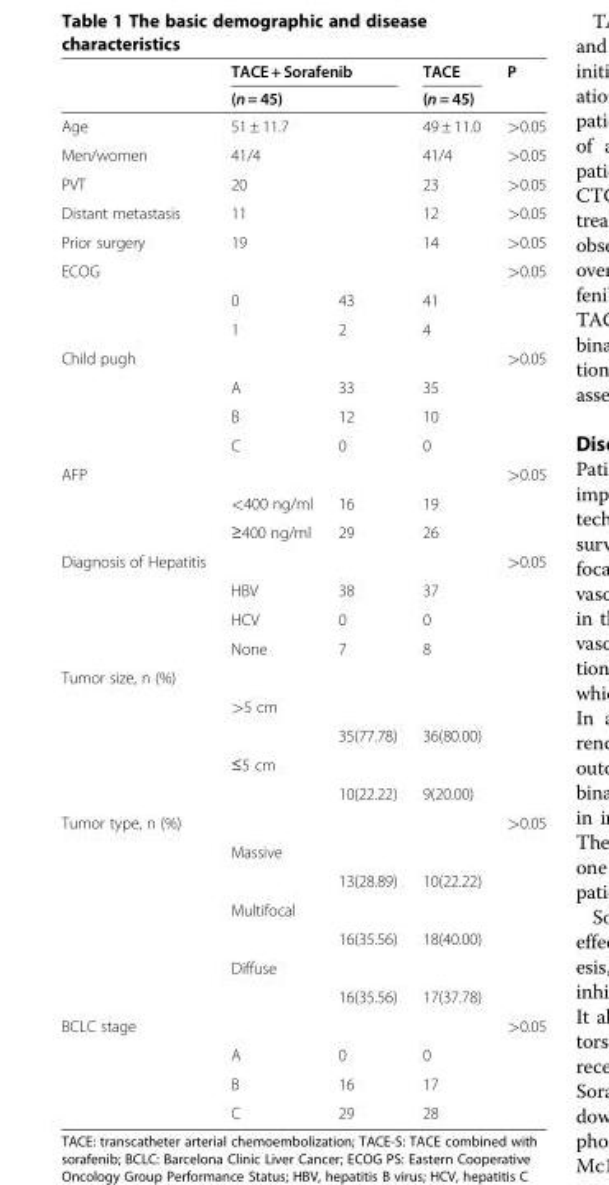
<table><thead><tr><td rowspan="2"></td><td rowspan="2" colspan="2">TACE + Sorafenib (n = 45)</td><td rowspan="2">TACE (n = 45)</td><td rowspan="2">P</td></tr><tr></tr></thead><tbody><tr><td>Age</td><td colspan="2">51 ± 11.7</td><td>49 ± 11.0</td><td>&gt;0.05</td></tr><tr><td>Men/women</td><td colspan="2">41/4</td><td>41/4</td><td>&gt;0.05</td></tr><tr><td>PVT</td><td colspan="2">20</td><td>23</td><td>&gt;0.05</td></tr><tr><td>Distant metastasis</td><td colspan="2">11</td><td>12</td><td>&gt;0.05</td></tr><tr><td>Prior surgery</td><td colspan="2">19</td><td>14</td><td>&gt;0.05</td></tr><tr><td rowspan="3">ECOG</td><td colspan="3"></td><td>&gt;0.05</td></tr><tr><td>0</td><td>43</td><td>41</td><td></td></tr><tr><td>1</td><td>2</td><td>4</td><td></td></tr><tr><td rowspan="4">Child pugh</td><td colspan="3"></td><td>&gt;0.05</td></tr><tr><td>A</td><td>33</td><td>35</td><td></td></tr><tr><td>B</td><td>12</td><td>10</td><td></td></tr><tr><td>C</td><td>0</td><td>0</td><td></td></tr><tr><td rowspan="3">AFP</td><td colspan="3"></td><td>&gt;0.05</td></tr><tr><td>&lt;400 ng/ml</td><td>16</td><td>19</td><td></td></tr><tr><td>≥400 ng/ml</td><td>29</td><td>26</td><td></td></tr><tr><td rowspan="4">Diagnosis of Hepatitis</td><td colspan="3"></td><td>&gt;0.05</td></tr><tr><td>HBV</td><td>38</td><td>37</td><td></td></tr><tr><td>HCV</td><td>0</td><td>0</td><td></td></tr><tr><td>None</td><td>7</td><td>8</td><td></td></tr><tr><td colspan="5">Tumor size, n (%)</td></tr><tr><td></td><td>&gt;5 cm</td><td></td><td></td><td></td></tr><tr><td></td><td></td><td>35(77.78)</td><td>36(80.00)</td><td></td></tr><tr><td></td><td>≤5 cm</td><td></td><td></td><td></td></tr><tr><td></td><td></td><td>10(22.22)</td><td>9(20.00)</td><td></td></tr><tr><td rowspan="7">Tumor type, n (%)</td><td></td><td></td><td></td><td>&gt;0.05</td></tr><tr><td>Massive</td><td></td><td></td><td></td></tr><tr><td></td><td>13(28.89)</td><td>10(22.22)</td><td></td></tr><tr><td>Multifocal</td><td></td><td></td><td></td></tr><tr><td></td><td>16(35.56)</td><td>18(40.00)</td><td></td></tr><tr><td>Diffuse</td><td></td><td></td><td></td></tr><tr><td></td><td>16(35.56)</td><td>17(37.78)</td><td></td></tr><tr><td rowspan="4">BCLC stage</td><td colspan="3"></td><td>&gt;0.05</td></tr><tr><td>A</td><td>0</td><td>0</td><td></td></tr><tr><td>B</td><td>16</td><td>17</td><td></td></tr><tr><td>C</td><td>29</td><td>28</td><td></td></tr></tbody></table>